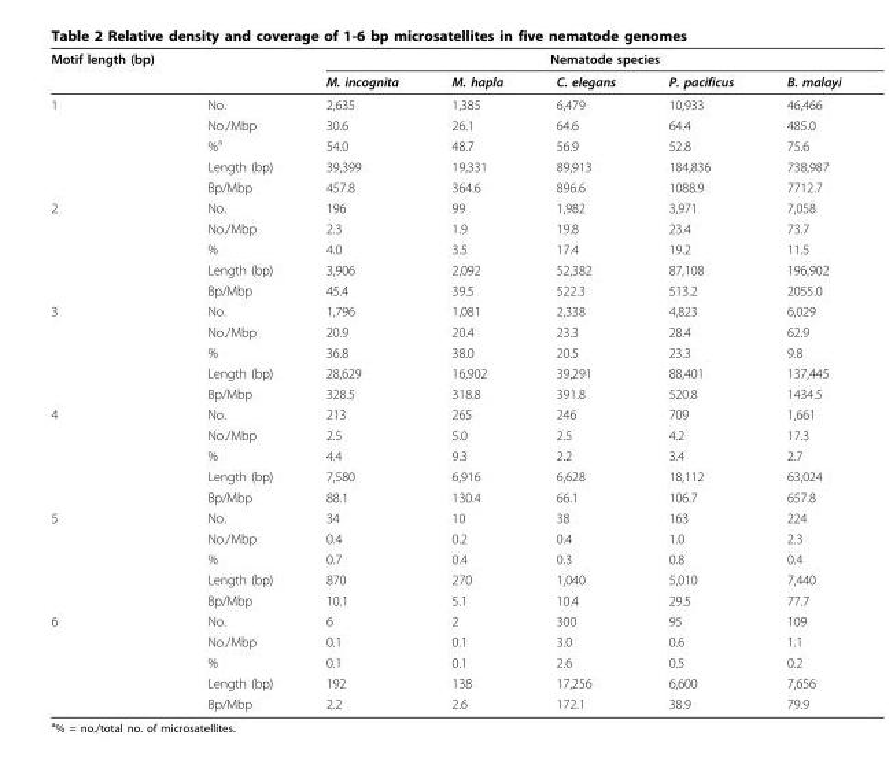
<table><thead><tr><td rowspan="2">Motif length (bp)</td><td rowspan="2"></td><td colspan="5">Nematode species</td></tr><tr><td>M. incognita</td><td>M. hapla</td><td>C. elegans</td><td>P. pacificus</td><td>B. malayi</td></tr></thead><tbody><tr><td rowspan="5">1</td><td>No.</td><td>2,635</td><td>1,385</td><td>6,479</td><td>10,933</td><td>46,466</td></tr><tr><td>No./Mbp</td><td>30.6</td><td>26.1</td><td>64.6</td><td>64.4</td><td>485.0</td></tr><tr><td>%<sup>a</sup></td><td>54.0</td><td>48.7</td><td>56.9</td><td>52.8</td><td>75.6</td></tr><tr><td>Length (bp)</td><td>39,399</td><td>19,331</td><td>89,913</td><td>184,836</td><td>738,987</td></tr><tr><td>Bp/Mbp</td><td>457.8</td><td>364.6</td><td>896.6</td><td>1088.9</td><td>7712.7</td></tr><tr><td rowspan="5">2</td><td>No.</td><td>196</td><td>99</td><td>1,982</td><td>3,971</td><td>7,058</td></tr><tr><td>No./Mbp</td><td>2.3</td><td>1.9</td><td>19.8</td><td>23.4</td><td>73.7</td></tr><tr><td>%</td><td>4.0</td><td>3.5</td><td>17.4</td><td>19.2</td><td>11.5</td></tr><tr><td>Length (bp)</td><td>3,906</td><td>2,092</td><td>52,382</td><td>87,108</td><td>196,902</td></tr><tr><td>Bp/Mbp</td><td>45.4</td><td>39.5</td><td>522.3</td><td>513.2</td><td>2055.0</td></tr><tr><td rowspan="5">3</td><td>No.</td><td>1,796</td><td>1,081</td><td>2,338</td><td>4,823</td><td>6,029</td></tr><tr><td>No./Mbp</td><td>20.9</td><td>20.4</td><td>23.3</td><td>28.4</td><td>62.9</td></tr><tr><td>%</td><td>36.8</td><td>38.0</td><td>20.5</td><td>23.3</td><td>9.8</td></tr><tr><td>Length (bp)</td><td>28,629</td><td>16,902</td><td>39,291</td><td>88,401</td><td>137,445</td></tr><tr><td>Bp/Mbp</td><td>328.5</td><td>318.8</td><td>391.8</td><td>520.8</td><td>1434.5</td></tr><tr><td rowspan="5">4</td><td>No.</td><td>213</td><td>265</td><td>246</td><td>709</td><td>1,661</td></tr><tr><td>No./Mbp</td><td>2.5</td><td>5.0</td><td>2.5</td><td>4.2</td><td>17.3</td></tr><tr><td>%</td><td>4.4</td><td>9.3</td><td>2.2</td><td>3.4</td><td>2.7</td></tr><tr><td>Length (bp)</td><td>7,580</td><td>6,916</td><td>6,628</td><td>18,112</td><td>63,024</td></tr><tr><td>Bp/Mbp</td><td>88.1</td><td>130.4</td><td>66.1</td><td>106.7</td><td>657.8</td></tr><tr><td rowspan="5">5</td><td>No.</td><td>34</td><td>10</td><td>38</td><td>163</td><td>224</td></tr><tr><td>No./Mbp</td><td>0.4</td><td>0.2</td><td>0.4</td><td>1.0</td><td>2.3</td></tr><tr><td>%</td><td>0.7</td><td>0.4</td><td>0.3</td><td>0.8</td><td>0.4</td></tr><tr><td>Length (bp)</td><td>870</td><td>270</td><td>1,040</td><td>5,010</td><td>7,440</td></tr><tr><td>Bp/Mbp</td><td>10.1</td><td>5.1</td><td>10.4</td><td>29.5</td><td>77.7</td></tr><tr><td rowspan="5">6</td><td>No.</td><td>6</td><td>2</td><td>300</td><td>95</td><td>109</td></tr><tr><td>No./Mbp</td><td>0.1</td><td>0.1</td><td>3.0</td><td>0.6</td><td>1.1</td></tr><tr><td>%</td><td>0.1</td><td>0.1</td><td>2.6</td><td>0.5</td><td>0.2</td></tr><tr><td>Length (bp)</td><td>192</td><td>138</td><td>17,256</td><td>6,600</td><td>7,656</td></tr><tr><td>Bp/Mbp</td><td>2.2</td><td>2.6</td><td>172.1</td><td>38.9</td><td>79.9</td></tr></tbody></table>